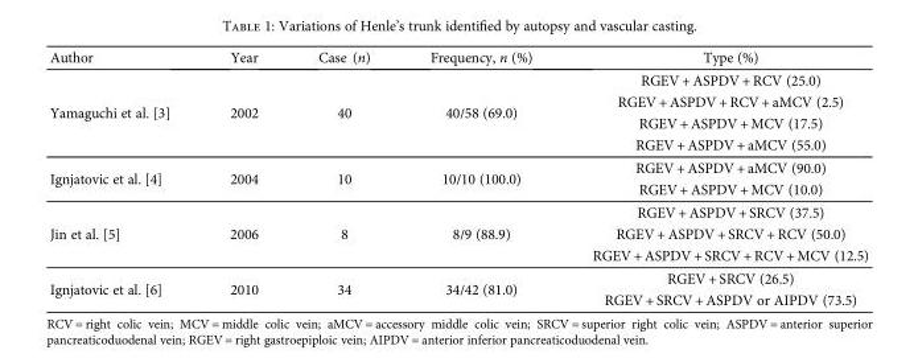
<table><thead><tr><td>Author</td><td>Year</td><td>Case (n)</td><td>Frequency, n (%)</td><td>Type (%)</td></tr></thead><tbody><tr><td rowspan="4">Yamaguchi et al. [3]</td><td rowspan="4">2002</td><td rowspan="4">40</td><td rowspan="4">40/58 (69.0)</td><td>RGEV + ASPDV + RCV (25.0)</td></tr><tr><td>RGEV + ASPDV + RCV + aMCV (2.5)</td></tr><tr><td>RGEV + ASPDV + MCV (17.5)</td></tr><tr><td>RGEV + ASPDV + aMCV (55.0)</td></tr><tr><td rowspan="2">Ignjatovic et al. [4]</td><td rowspan="2">2004</td><td rowspan="2">10</td><td rowspan="2">10/10 (100.0)</td><td>RGEV + ASPDV + aMCV (90.0)</td></tr><tr><td>RGEV + ASPDV + MCV (10.0)</td></tr><tr><td rowspan="3">Jin et al. [5]</td><td rowspan="3">2006</td><td rowspan="3">8</td><td rowspan="3">8/9 (88.9)</td><td>RGEV + ASPDV + SRCV (37.5)</td></tr><tr><td>RGEV + ASPDV + SRCV + RCV (50.0)</td></tr><tr><td>RGEV + ASPDV + SRCV + RCV + MCV (12.5)</td></tr><tr><td rowspan="2">Ignjatovic et al. [6]</td><td rowspan="2">2010</td><td rowspan="2">34</td><td rowspan="2">34/42 (81.0)</td><td>RGEV + SRCV (26.5)</td></tr><tr><td>RGEV + SRCV + ASPDV or AIPDV (73.5)</td></tr></tbody></table>